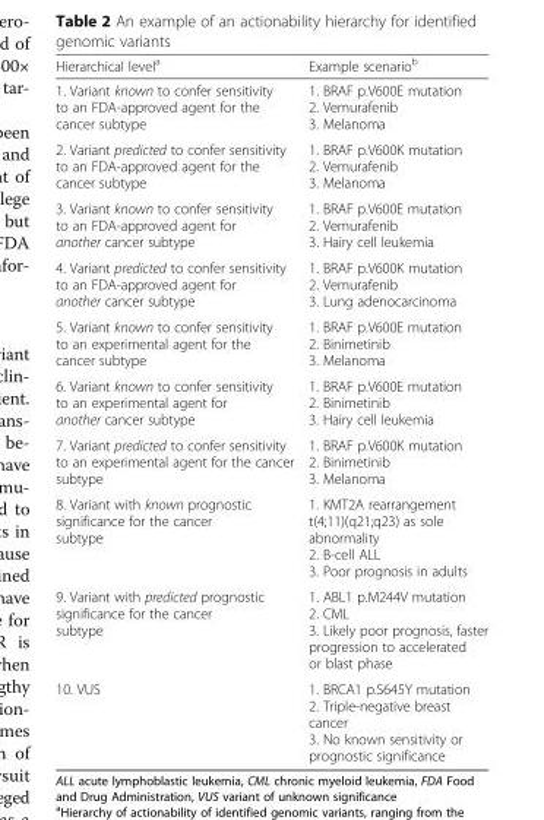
<table><thead><tr><td>Hierarchical level<sup>a</sup></td><td>Example scenario<sup>b</sup></td></tr></thead><tbody><tr><td>1. Variant known to confer sensitivity to an FDA-approved agent for the cancer subtype</td><td>1. BRAF p.V600E mutation 2. Vemurafenib 3. Melanoma</td></tr><tr><td>2. Variant predicted to confer sensitivity to an FDA-approved agent for the cancer subtype</td><td>1. BRAF p.V600K mutation 2. Vemurafenib 3. Melanoma</td></tr><tr><td>3. Variant known to confer sensitivity to an FDA-approved agent for another cancer subtype</td><td>1. BRAF p.V600E mutation 2. Vemurafenib 3. Hairy cell leukemia</td></tr><tr><td>4. Variant predicted to confer sensitivity to an FDA-approved agent for another cancer subtype</td><td>1. BRAF p.V600K mutation 2. Vemurafenib 3. Lung adenocarcinoma</td></tr><tr><td>5. Variant known to confer sensitivity to an experimental agent for the cancer subtype</td><td>1. BRAF p.V600E mutation 2. Binimetinib 3. Melanoma</td></tr><tr><td>6. Variant known to confer sensitivity to an experimental agent for another cancer subtype</td><td>1. BRAF p.V600E mutation 2. Binimetinib 3. Hairy cell leukemia</td></tr><tr><td>7. Variant predicted to confer sensitivity to an experimental agent for the cancer subtype</td><td>1. BRAF p.V600K mutation 2. Binimetinib 3. Melanoma</td></tr><tr><td>8. Variant with known prognostic significance for the cancer subtype</td><td>1. KMT2A rearrangement t(4;11)(q21;q23) as sole abnormality 2. B-cell ALL 3. Poor prognosis in adults</td></tr><tr><td>9. Variant with predicted prognostic significance for the cancer subtype</td><td>1. ABL1 p.M244V mutation 2. CML 3. Likely poor prognosis, faster progression to accelerated or blast phase</td></tr><tr><td>10. VUS</td><td>1. BRCA1 p.S645Y mutation 2. Triple-negative breast cancer 3. No known sensitivity or prognostic significance</td></tr></tbody></table>